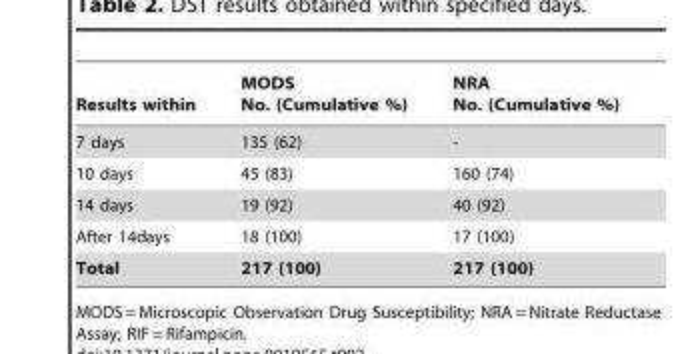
<table><thead><tr><td>Results within</td><td>MODS No. (Cumulative %)</td><td>NRA No. (Cumulative %)</td></tr></thead><tbody><tr><td>7 days</td><td>135 (62)</td><td>-</td></tr><tr><td>10 days</td><td>45 (83)</td><td>160 (74)</td></tr><tr><td>14 days</td><td>19 (92)</td><td>40 (92)</td></tr><tr><td>After 14days</td><td>18 (100)</td><td>17 (100)</td></tr><tr><td>Total</td><td>217 (100)</td><td>217 (100)</td></tr></tbody></table>